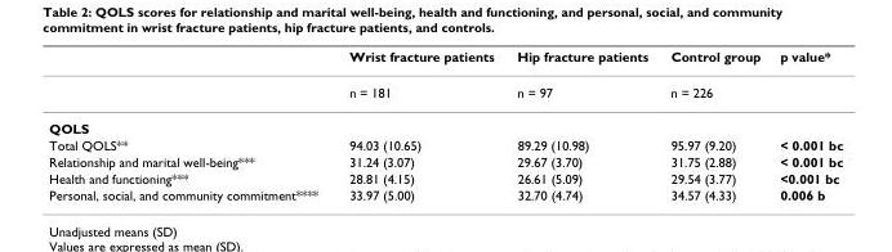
<table><thead><tr><td></td><td>Wrist fracture patients</td><td>Hip fracture patients</td><td>Control group</td><td>p value*</td></tr></thead><tbody><tr><td></td><td>n = 181</td><td>n = 97</td><td>n = 226</td><td></td></tr><tr><td colspan="5">QOLS</td></tr><tr><td>Total QOLS**</td><td>94.03 (10.65)</td><td>89.29 (10.98)</td><td>95.97 (9.20)</td><td>&lt; 0.001 bc</td></tr><tr><td>Relationship and marital well-being***</td><td>31.24 (3.07)</td><td>29.67 (3.70)</td><td>31.75 (2.88)</td><td>&lt; 0.001 bc</td></tr><tr><td>Health and functioning***</td><td>28.81 (4.15)</td><td>26.61 (5.09)</td><td>29.54 (3.77)</td><td>&lt;0.001 bc</td></tr><tr><td>Personal, social, and community commitment****</td><td>33.97 (5.00)</td><td>32.70 (4.74)</td><td>34.57 (4.33)</td><td>0.006 b</td></tr></tbody></table>